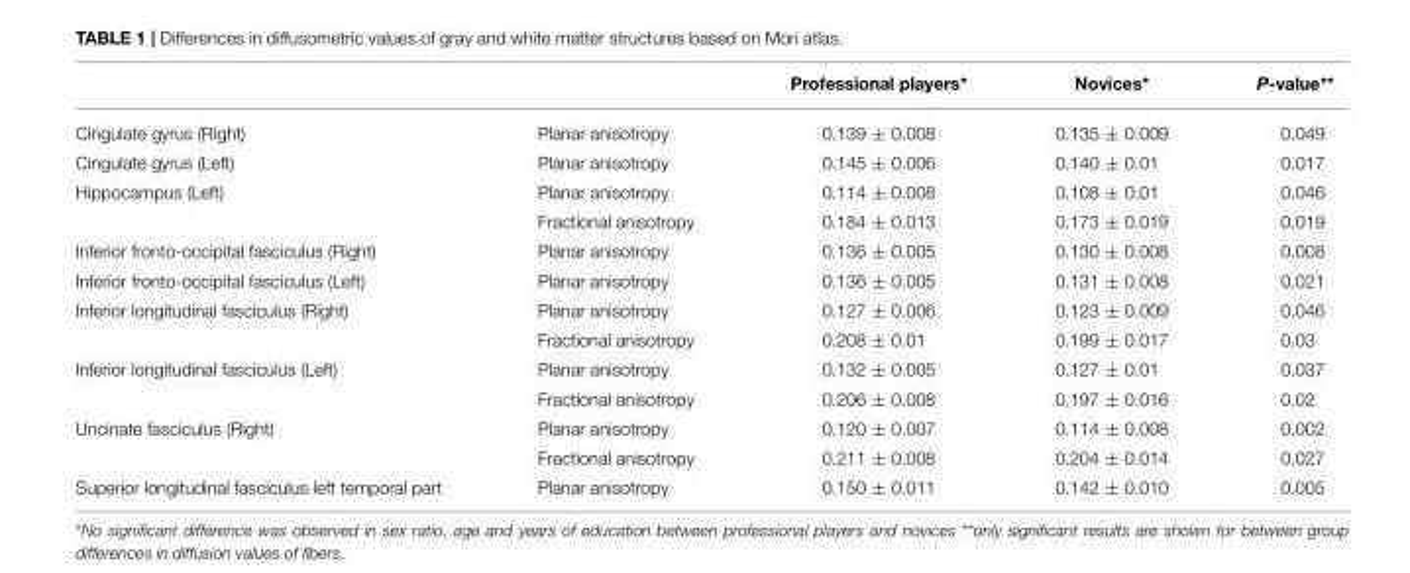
<table><thead><tr><td></td><td></td><td>Professional players*</td><td>Novices*</td><td>P-value**</td></tr></thead><tbody><tr><td>Cingulate gyrus (Right)</td><td>Planar anisotropy</td><td>0.139 ± 0.008</td><td>0.135 ± 0.009</td><td>0.049</td></tr><tr><td>Cingulate gyrus (Left)</td><td>Planar anisotropy</td><td>0.145 ± 0.006</td><td>0.140 ± 0.01</td><td>0.017</td></tr><tr><td rowspan="2">Hippocampus (Left)</td><td>Planar anisotropy</td><td>0.114 ± 0.008</td><td>0.108 ± 0.01</td><td>0.046</td></tr><tr><td>Fractional anisotropy</td><td>0.184 ± 0.013</td><td>0.173 ± 0.019</td><td>0.019</td></tr><tr><td>Inferior fronto-occipital fasciculus (Right)</td><td>Planar anisotropy</td><td>0.136 ± 0.005</td><td>0.130 ± 0.008</td><td>0.008</td></tr><tr><td>Inferior fronto-occipital fasciculus (Left)</td><td>Planar anisotropy</td><td>0.136 ± 0.005</td><td>0.131 ± 0.008</td><td>0.021</td></tr><tr><td rowspan="2">Inferior longitudinal fasciculus (Right)</td><td>Planar anisotropy</td><td>0.127 ± 0.006</td><td>0.123 ± 0.009</td><td>0.046</td></tr><tr><td>Fractional anisotropy</td><td>0.208 ± 0.01</td><td>0.199 ± 0.017</td><td>0.03</td></tr><tr><td rowspan="2">Inferior longitudinal fasciculus (Left)</td><td>Planar anisotropy</td><td>0.132 ± 0.005</td><td>0.127 ± 0.01</td><td>0.037</td></tr><tr><td>Fractional anisotropy</td><td>0.206 ± 0.008</td><td>0.197 ± 0.016</td><td>0.02</td></tr><tr><td rowspan="2">Uncinate fasciculus (Right)</td><td>Planar anisotropy</td><td>0.120 ± 0.007</td><td>0.114 ± 0.008</td><td>0.002</td></tr><tr><td>Fractional anisotropy</td><td>0.211 ± 0.008</td><td>0.204 ± 0.014</td><td>0.027</td></tr><tr><td>Superior longitudinal fasciculus left temporal part</td><td>Planar anisotropy</td><td>0.150 ± 0.011</td><td>0.142 ± 0.010</td><td>0.005</td></tr></tbody></table>